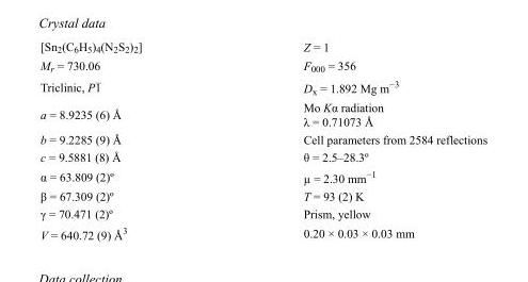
<table><tbody><tr><td>[Sn<sub>2</sub>(C<sub>6</sub>H<sub>5</sub>)<sub>4</sub>(N<sub>2</sub>S<sub>2</sub>)<sub>2</sub>]</td><td>Z = 1</td></tr><tr><td>M<sub>r</sub> = 730.06</td><td>F<sub>000</sub> = 356</td></tr><tr><td>Triclinic, P1</td><td>D<sub>x</sub> = 1.892 Mg m<sup>−3</sup></td></tr><tr><td>a = 8.9235 (6) Å</td><td>Mo Kα radiation λ = 0.71073 Å</td></tr><tr><td>b = 9.2285 (9) Å</td><td>Cell parameters from 2584 reflections</td></tr><tr><td>c = 9.5881 (8) Å</td><td>θ = 2.5–28.3º</td></tr><tr><td>α = 63.809 (2)º</td><td>µ = 2.30 mm<sup>−1</sup></td></tr><tr><td>β = 67.309 (2)º</td><td>T = 93 (2) K</td></tr><tr><td>γ = 70.471 (2)º</td><td>Prism, yellow</td></tr><tr><td>V = 640.72 (9) Å<sup>3</sup></td><td>0.20 × 0.03 × 0.03 mm</td></tr></tbody></table>